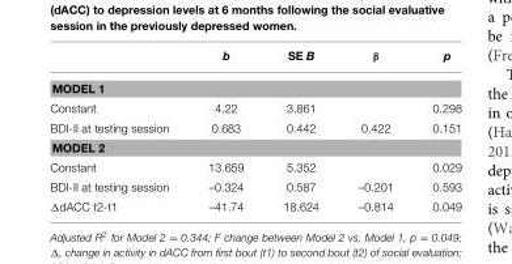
<table><thead><tr><td></td><td>b</td><td>SE B</td><td>β</td><td>p</td></tr></thead><tbody><tr><td colspan="5">MODEL 1</td></tr><tr><td>Constant</td><td>4.22</td><td>3.861</td><td></td><td>0.298</td></tr><tr><td>BDI-II at testing session</td><td>0.683</td><td>0.442</td><td>0.422</td><td>0.151</td></tr><tr><td colspan="5">MODEL 2</td></tr><tr><td>Constant</td><td>13.659</td><td>5.352</td><td></td><td>0.029</td></tr><tr><td>BDI-II at testing session</td><td>–0.324</td><td>0.587</td><td>–0.201</td><td>0.593</td></tr><tr><td>ΔdACC t2-t1</td><td>–41.74</td><td>18.624</td><td>–0.814</td><td>0.049</td></tr></tbody></table>